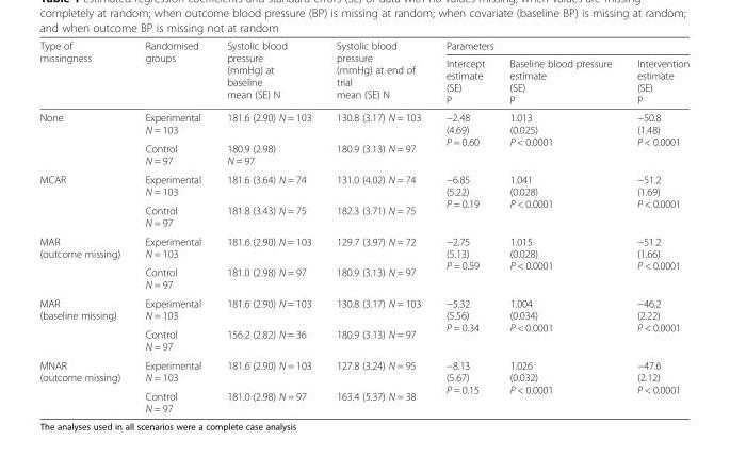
<table><thead><tr><td rowspan="2">Type of missingness</td><td rowspan="2">Randomised groups</td><td rowspan="2">Systolic blood pressure (mmHg) at baseline mean (SE) N</td><td rowspan="2">Systolic blood pressure (mmHg) at end of trial mean (SE) N</td><td colspan="3">Parameters</td></tr><tr><td>Intercept estimate (SE) P</td><td>Baseline blood pressure estimate (SE) P</td><td>Intervention estimate (SE) P</td></tr></thead><tbody><tr><td rowspan="2">None</td><td>Experimental N = 103</td><td>181.6 (2.90) N = 103</td><td>130.8 (3.17) N = 103</td><td rowspan="2">−2.48 (4.69) P = 0.60</td><td rowspan="2">1.013 (0.025) P &lt; 0.0001</td><td rowspan="2">−50.8 (1.48) P &lt; 0.0001</td></tr><tr><td>Control N = 97</td><td>180.9 (2.98) N = 97</td><td>180.9 (3.13) N = 97</td></tr><tr><td rowspan="2">MCAR</td><td>Experimental N = 103</td><td>181.6 (3.64) N = 74</td><td>131.0 (4.02) N = 74</td><td rowspan="2">−6.85 (5.22) P = 0.19</td><td rowspan="2">1.041 (0.028) P &lt; 0.0001</td><td rowspan="2">−51.2 (1.69) P &lt; 0.0001</td></tr><tr><td>Control N = 97</td><td>181.8 (3.43) N = 75</td><td>182.3 (3.71) N = 75</td></tr><tr><td rowspan="2">MAR (outcome missing)</td><td>Experimental N = 103</td><td>181.6 (2.90) N = 103</td><td>129.7 (3.97) N = 72</td><td rowspan="2">−2.75 (5.13) P = 0.59</td><td rowspan="2">1.015 (0.028) P &lt; 0.0001</td><td rowspan="2">−51.2 (1.66) P &lt; 0.0001</td></tr><tr><td>Control N = 97</td><td>181.0 (2.98) N = 97</td><td>180.9 (3.13) N = 97</td></tr><tr><td rowspan="2">MAR (baseline missing)</td><td>Experimental N = 103</td><td>181.6 (2.90) N = 103</td><td>130.8 (3.17) N = 103</td><td rowspan="2">−5.32 (5.56) P = 0.34</td><td rowspan="2">1.004 (0.034) P &lt; 0.0001</td><td rowspan="2">−46.2 (2.22) P &lt; 0.0001</td></tr><tr><td>Control N = 97</td><td>156.2 (2.82) N = 36</td><td>180.9 (3.13) N = 97</td></tr><tr><td rowspan="2">MNAR (outcome missing)</td><td>Experimental N = 103</td><td>181.6 (2.90) N = 103</td><td>127.8 (3.24) N = 95</td><td rowspan="2">−8.13 (5.67) P = 0.15</td><td rowspan="2">1.026 (0.032) P &lt; 0.0001</td><td rowspan="2">−47.6 (2.12) P &lt; 0.0001</td></tr><tr><td>Control N = 97</td><td>181.0 (2.98) N = 97</td><td>163.4 (5.37) N = 38</td></tr></tbody></table>